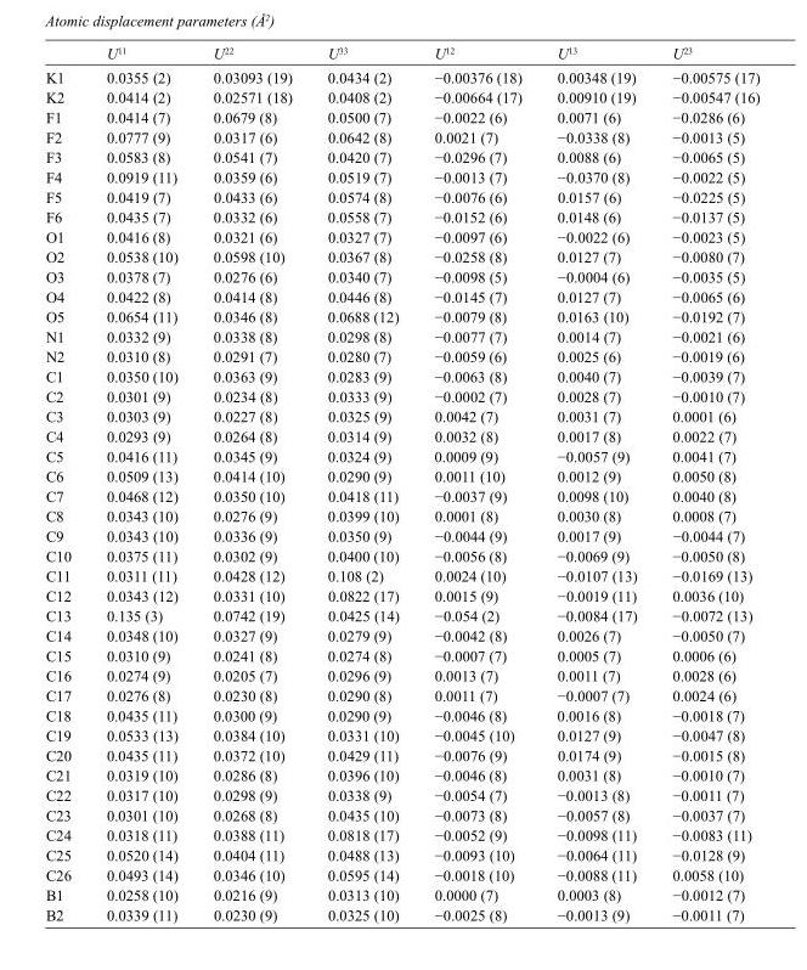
<table><thead><tr><td></td><td>U<sup>11</sup></td><td>U<sup>22</sup></td><td>U<sup>33</sup></td><td>U<sup>12</sup></td><td>U<sup>13</sup></td><td>U<sup>23</sup></td></tr></thead><tbody><tr><td>K1</td><td>0.0355 (2)</td><td>0.03093 (19)</td><td>0.0434 (2)</td><td>−0.00376 (18)</td><td>0.00348 (19)</td><td>−0.00575 (17)</td></tr><tr><td>K2</td><td>0.0414 (2)</td><td>0.02571 (18)</td><td>0.0408 (2)</td><td>−0.00664 (17)</td><td>0.00910 (19)</td><td>−0.00547 (16)</td></tr><tr><td>F1</td><td>0.0414 (7)</td><td>0.0679 (8)</td><td>0.0500 (7)</td><td>−0.0022 (6)</td><td>0.0071 (6)</td><td>−0.0286 (6)</td></tr><tr><td>F2</td><td>0.0777 (9)</td><td>0.0317 (6)</td><td>0.0642 (8)</td><td>0.0021 (7)</td><td>−0.0338 (8)</td><td>−0.0013 (5)</td></tr><tr><td>F3</td><td>0.0583 (8)</td><td>0.0541 (7)</td><td>0.0420 (7)</td><td>−0.0296 (7)</td><td>0.0088 (6)</td><td>−0.0065 (5)</td></tr><tr><td>F4</td><td>0.0919 (11)</td><td>0.0359 (6)</td><td>0.0519 (7)</td><td>−0.0013 (7)</td><td>−0.0370 (8)</td><td>−0.0022 (5)</td></tr><tr><td>F5</td><td>0.0419 (7)</td><td>0.0433 (6)</td><td>0.0574 (8)</td><td>−0.0076 (6)</td><td>0.0157 (6)</td><td>−0.0225 (5)</td></tr><tr><td>F6</td><td>0.0435 (7)</td><td>0.0332 (6)</td><td>0.0558 (7)</td><td>−0.0152 (6)</td><td>0.0148 (6)</td><td>−0.0137 (5)</td></tr><tr><td>O1</td><td>0.0416 (8)</td><td>0.0321 (6)</td><td>0.0327 (7)</td><td>−0.0097 (6)</td><td>−0.0022 (6)</td><td>−0.0023 (5)</td></tr><tr><td>O2</td><td>0.0538 (10)</td><td>0.0598 (10)</td><td>0.0367 (8)</td><td>−0.0258 (8)</td><td>0.0127 (7)</td><td>−0.0080 (7)</td></tr><tr><td>O3</td><td>0.0378 (7)</td><td>0.0276 (6)</td><td>0.0340 (7)</td><td>−0.0098 (5)</td><td>−0.0004 (6)</td><td>−0.0035 (5)</td></tr><tr><td>O4</td><td>0.0422 (8)</td><td>0.0414 (8)</td><td>0.0446 (8)</td><td>−0.0145 (7)</td><td>0.0127 (7)</td><td>−0.0065 (6)</td></tr><tr><td>O5</td><td>0.0654 (11)</td><td>0.0346 (8)</td><td>0.0688 (12)</td><td>−0.0079 (8)</td><td>0.0163 (10)</td><td>−0.0192 (7)</td></tr><tr><td>N1</td><td>0.0332 (9)</td><td>0.0338 (8)</td><td>0.0298 (8)</td><td>−0.0077 (7)</td><td>0.0014 (7)</td><td>−0.0021 (6)</td></tr><tr><td>N2</td><td>0.0310 (8)</td><td>0.0291 (7)</td><td>0.0280 (7)</td><td>−0.0059 (6)</td><td>0.0025 (6)</td><td>−0.0019 (6)</td></tr><tr><td>C1</td><td>0.0350 (10)</td><td>0.0363 (9)</td><td>0.0283 (9)</td><td>−0.0063 (8)</td><td>0.0040 (7)</td><td>−0.0039 (7)</td></tr><tr><td>C2</td><td>0.0301 (9)</td><td>0.0234 (8)</td><td>0.0333 (9)</td><td>−0.0002 (7)</td><td>0.0028 (7)</td><td>−0.0010 (7)</td></tr><tr><td>C3</td><td>0.0303 (9)</td><td>0.0227 (8)</td><td>0.0325 (9)</td><td>0.0042 (7)</td><td>0.0031 (7)</td><td>0.0001 (6)</td></tr><tr><td>C4</td><td>0.0293 (9)</td><td>0.0264 (8)</td><td>0.0314 (9)</td><td>0.0032 (8)</td><td>0.0017 (8)</td><td>0.0022 (7)</td></tr><tr><td>C5</td><td>0.0416 (11)</td><td>0.0345 (9)</td><td>0.0324 (9)</td><td>0.0009 (9)</td><td>−0.0057 (9)</td><td>0.0041 (7)</td></tr><tr><td>C6</td><td>0.0509 (13)</td><td>0.0414 (10)</td><td>0.0290 (9)</td><td>0.0011 (10)</td><td>0.0012 (9)</td><td>0.0050 (8)</td></tr><tr><td>C7</td><td>0.0468 (12)</td><td>0.0350 (10)</td><td>0.0418 (11)</td><td>−0.0037 (9)</td><td>0.0098 (10)</td><td>0.0040 (8)</td></tr><tr><td>C8</td><td>0.0343 (10)</td><td>0.0276 (9)</td><td>0.0399 (10)</td><td>0.0001 (8)</td><td>0.0030 (8)</td><td>0.0008 (7)</td></tr><tr><td>C9</td><td>0.0343 (10)</td><td>0.0336 (9)</td><td>0.0350 (9)</td><td>−0.0044 (9)</td><td>0.0017 (9)</td><td>−0.0044 (7)</td></tr><tr><td>C10</td><td>0.0375 (11)</td><td>0.0302 (9)</td><td>0.0400 (10)</td><td>−0.0056 (8)</td><td>−0.0069 (9)</td><td>−0.0050 (8)</td></tr><tr><td>C11</td><td>0.0311 (11)</td><td>0.0428 (12)</td><td>0.108 (2)</td><td>0.0024 (10)</td><td>−0.0107 (13)</td><td>−0.0169 (13)</td></tr><tr><td>C12</td><td>0.0343 (12)</td><td>0.0331 (10)</td><td>0.0822 (17)</td><td>0.0015 (9)</td><td>−0.0019 (11)</td><td>0.0036 (10)</td></tr><tr><td>C13</td><td>0.135 (3)</td><td>0.0742 (19)</td><td>0.0425 (14)</td><td>−0.054 (2)</td><td>−0.0084 (17)</td><td>−0.0072 (13)</td></tr><tr><td>C14</td><td>0.0348 (10)</td><td>0.0327 (9)</td><td>0.0279 (9)</td><td>−0.0042 (8)</td><td>0.0026 (7)</td><td>−0.0050 (7)</td></tr><tr><td>C15</td><td>0.0310 (9)</td><td>0.0241 (8)</td><td>0.0274 (8)</td><td>−0.0007 (7)</td><td>0.0005 (7)</td><td>0.0006 (6)</td></tr><tr><td>C16</td><td>0.0274 (9)</td><td>0.0205 (7)</td><td>0.0296 (9)</td><td>0.0013 (7)</td><td>0.0011 (7)</td><td>0.0028 (6)</td></tr><tr><td>C17</td><td>0.0276 (8)</td><td>0.0230 (8)</td><td>0.0290 (8)</td><td>0.0011 (7)</td><td>−0.0007 (7)</td><td>0.0024 (6)</td></tr><tr><td>C18</td><td>0.0435 (11)</td><td>0.0300 (9)</td><td>0.0290 (9)</td><td>−0.0046 (8)</td><td>0.0016 (8)</td><td>−0.0018 (7)</td></tr><tr><td>C19</td><td>0.0533 (13)</td><td>0.0384 (10)</td><td>0.0331 (10)</td><td>−0.0045 (10)</td><td>0.0127 (9)</td><td>−0.0047 (8)</td></tr><tr><td>C20</td><td>0.0435 (11)</td><td>0.0372 (10)</td><td>0.0429 (11)</td><td>−0.0076 (9)</td><td>0.0174 (9)</td><td>−0.0015 (8)</td></tr><tr><td>C21</td><td>0.0319 (10)</td><td>0.0286 (8)</td><td>0.0396 (10)</td><td>−0.0046 (8)</td><td>0.0031 (8)</td><td>−0.0010 (7)</td></tr><tr><td>C22</td><td>0.0317 (10)</td><td>0.0298 (9)</td><td>0.0338 (9)</td><td>−0.0054 (7)</td><td>−0.0013 (8)</td><td>−0.0011 (7)</td></tr><tr><td>C23</td><td>0.0301 (10)</td><td>0.0268 (8)</td><td>0.0435 (10)</td><td>−0.0073 (8)</td><td>−0.0057 (8)</td><td>−0.0037 (7)</td></tr><tr><td>C24</td><td>0.0318 (11)</td><td>0.0388 (11)</td><td>0.0818 (17)</td><td>−0.0052 (9)</td><td>−0.0098 (11)</td><td>−0.0083 (11)</td></tr><tr><td>C25</td><td>0.0520 (14)</td><td>0.0404 (11)</td><td>0.0488 (13)</td><td>−0.0093 (10)</td><td>−0.0064 (11)</td><td>−0.0128 (9)</td></tr><tr><td>C26</td><td>0.0493 (14)</td><td>0.0346 (10)</td><td>0.0595 (14)</td><td>−0.0018 (10)</td><td>−0.0088 (11)</td><td>0.0058 (10)</td></tr><tr><td>B1</td><td>0.0258 (10)</td><td>0.0216 (9)</td><td>0.0313 (10)</td><td>0.0000 (7)</td><td>0.0003 (8)</td><td>−0.0012 (7)</td></tr><tr><td>B2</td><td>0.0339 (11)</td><td>0.0230 (9)</td><td>0.0325 (10)</td><td>−0.0025 (8)</td><td>−0.0013 (9)</td><td>−0.0011 (7)</td></tr></tbody></table>